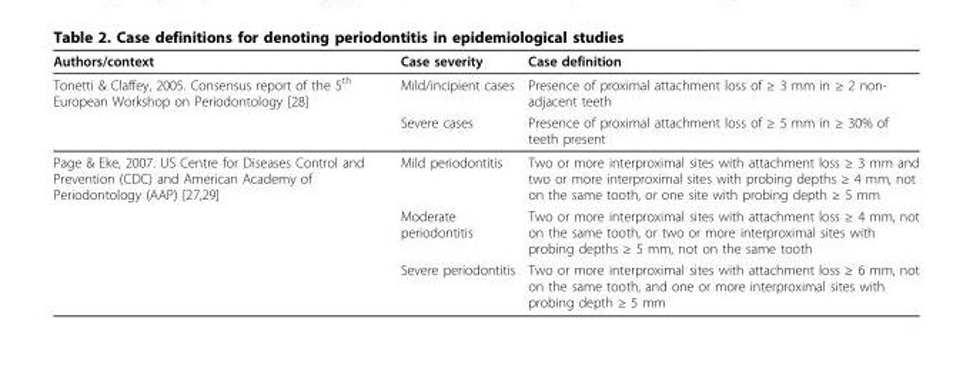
<table><thead><tr><td>Authors/context</td><td>Case severity</td><td>Case definition</td></tr></thead><tbody><tr><td rowspan="2">Tonetti &amp; Claffey, 2005. Consensus report of the 5<sup>th</sup> European Workshop on Periodontology [28]</td><td>Mild/incipient cases</td><td>Presence of proximal attachment loss of ≥ 3 mm in ≥ 2 non- adjacent teeth</td></tr><tr><td>Severe cases</td><td>Presence of proximal attachment loss of ≥ 5 mm in ≥ 30% of teeth present</td></tr><tr><td rowspan="3">Page &amp; Eke, 2007. US Centre for Diseases Control and Prevention (CDC) and American Academy of Periodontology (AAP) [27,29]</td><td>Mild periodontitis</td><td>Two or more interproximal sites with attachment loss ≥ 3 mm and two or more interproximal sites with probing depths ≥ 4 mm, not on the same tooth, or one site with probing depth ≥ 5 mm</td></tr><tr><td>Moderate periodontitis</td><td>Two or more interproximal sites with attachment loss ≥ 4 mm, not on the same tooth, or two or more interproximal sites with probing depths ≥ 5 mm, not on the same tooth</td></tr><tr><td>Severe periodontitis</td><td>Two or more interproximal sites with attachment loss ≥ 6 mm, not on the same tooth, and one or more interproximal sites with probing depth ≥ 5 mm</td></tr></tbody></table>